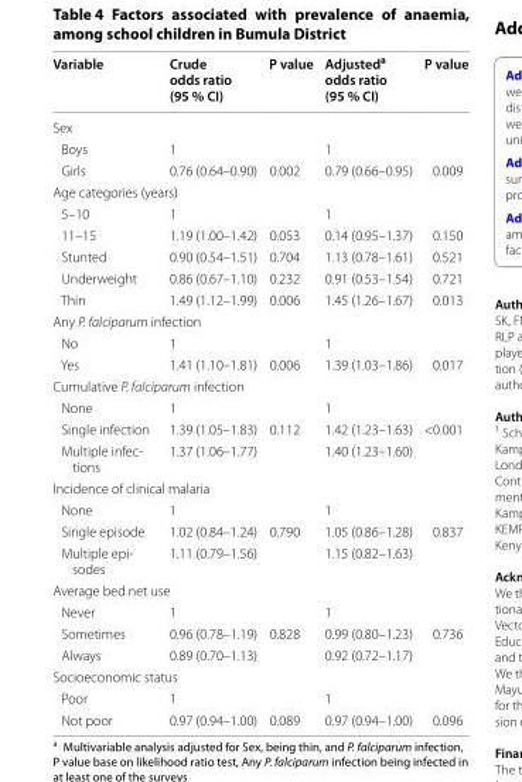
<table><thead><tr><td>Variable</td><td>Crude odds ratio (95 % CI)</td><td>P value</td><td>Adjusted<sup>a</sup> odds ratio (95 % CI)</td><td>P value</td></tr></thead><tbody><tr><td colspan="5">Sex</td></tr><tr><td>Boys</td><td>1</td><td></td><td>1</td><td></td></tr><tr><td>Girls</td><td>0.76 (0.64–0.90)</td><td>0.002</td><td>0.79 (0.66–0.95)</td><td>0.009</td></tr><tr><td colspan="5">Age categories (years)</td></tr><tr><td>5–10</td><td>1</td><td></td><td>1</td><td></td></tr><tr><td>11–15</td><td>1.19 (1.00–1.42)</td><td>0.053</td><td>0.14 (0.95–1.37)</td><td>0.150</td></tr><tr><td>Stunted</td><td>0.90 (0.54–1.51)</td><td>0.704</td><td>1.13 (0.78–1.61)</td><td>0.521</td></tr><tr><td>Underweight</td><td>0.86 (0.67–1.10)</td><td>0.232</td><td>0.91 (0.53–1.54)</td><td>0.721</td></tr><tr><td>Thin</td><td>1.49 (1.12–1.99)</td><td>0.006</td><td>1.45 (1.26–1.67)</td><td>0.013</td></tr><tr><td colspan="5">Any P. falciparum infection</td></tr><tr><td>No</td><td>1</td><td></td><td>1</td><td></td></tr><tr><td>Yes</td><td>1.41 (1.10–1.81)</td><td>0.006</td><td>1.39 (1.03–1.86)</td><td>0.017</td></tr><tr><td colspan="5">Cumulative P. falciparum infection</td></tr><tr><td>None</td><td>1</td><td></td><td>1</td><td></td></tr><tr><td>Single infection</td><td>1.39 (1.05–1.83)</td><td>0.112</td><td>1.42 (1.23–1.63)</td><td>&lt;0.001</td></tr><tr><td>Multiple infec‑ tions</td><td>1.37 (1.06–1.77)</td><td></td><td>1.40 (1.23–1.60)</td><td></td></tr><tr><td colspan="5">Incidence of clinical malaria</td></tr><tr><td>None</td><td>1</td><td></td><td>1</td><td></td></tr><tr><td>Single episode</td><td>1.02 (0.84–1.24)</td><td>0.790</td><td>1.05 (0.86–1.28)</td><td>0.837</td></tr><tr><td>Multiple epi‑ sodes</td><td>1.11 (0.79–1.56)</td><td></td><td>1.15 (0.82–1.63)</td><td></td></tr><tr><td colspan="5">Average bed net use</td></tr><tr><td>Never</td><td>1</td><td></td><td>1</td><td></td></tr><tr><td>Sometimes</td><td>0.96 (0.78–1.19)</td><td>0.828</td><td>0.99 (0.80–1.23)</td><td>0.736</td></tr><tr><td>Always</td><td>0.89 (0.70–1.13)</td><td></td><td>0.92 (0.72–1.17)</td><td></td></tr><tr><td colspan="5">Socioeconomic status</td></tr><tr><td>Poor</td><td>1</td><td></td><td>1</td><td></td></tr><tr><td>Not poor</td><td>0.97 (0.94–1.00)</td><td>0.089</td><td>0.97 (0.94–1.00)</td><td>0.096</td></tr></tbody></table>